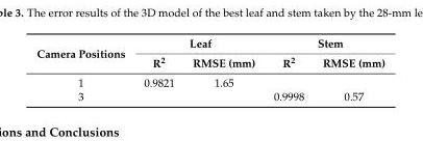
<table><thead><tr><td rowspan="2">Camera Positions</td><td colspan="2">Leaf</td><td colspan="2">Stem</td></tr><tr><td>R<sup>2</sup></td><td>RMSE (mm)</td><td>R<sup>2</sup></td><td>RMSE (mm)</td></tr></thead><tbody><tr><td>1</td><td>0.9821</td><td>1.65</td><td></td><td></td></tr><tr><td>3</td><td></td><td></td><td>0.9998</td><td>0.57</td></tr></tbody></table>